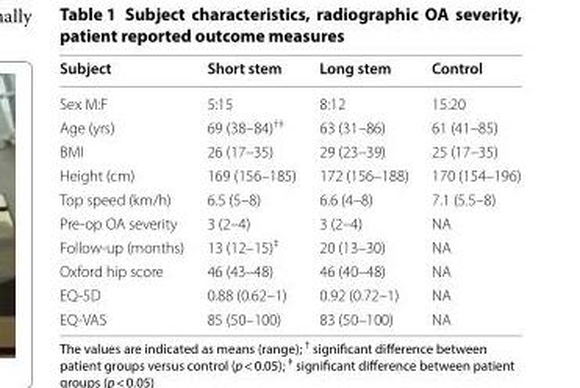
<table><thead><tr><td>Subject</td><td>Short stem</td><td>Long stem</td><td>Control</td></tr></thead><tbody><tr><td>Sex M:F</td><td>5:15</td><td>8:12</td><td>15:20</td></tr><tr><td>Age (yrs)</td><td>69 (38–84)<sup>†‡</sup></td><td>63 (31–86)</td><td>61 (41–85)</td></tr><tr><td>BMI</td><td>26 (17–35)</td><td>29 (23–39)</td><td>25 (17–35)</td></tr><tr><td>Height (cm)</td><td>169 (156–185)</td><td>172 (156–188)</td><td>170 (154–196)</td></tr><tr><td>Top speed (km/h)</td><td>6.5 (5–8)</td><td>6.6 (4–8)</td><td>7.1 (5.5–8)</td></tr><tr><td>Pre-op OA severity</td><td>3 (2–4)</td><td>3 (2–4)</td><td>NA</td></tr><tr><td>Follow-up (months)</td><td>13 (12–15)<sup>‡</sup></td><td>20 (13–30)</td><td>NA</td></tr><tr><td>Oxford hip score</td><td>46 (43–48)</td><td>46 (40–48)</td><td>NA</td></tr><tr><td>EQ-5D</td><td>0.88 (0.62–1)</td><td>0.92 (0.72–1)</td><td>NA</td></tr><tr><td>EQ-VAS</td><td>85 (50–100)</td><td>83 (50–100)</td><td>NA</td></tr></tbody></table>